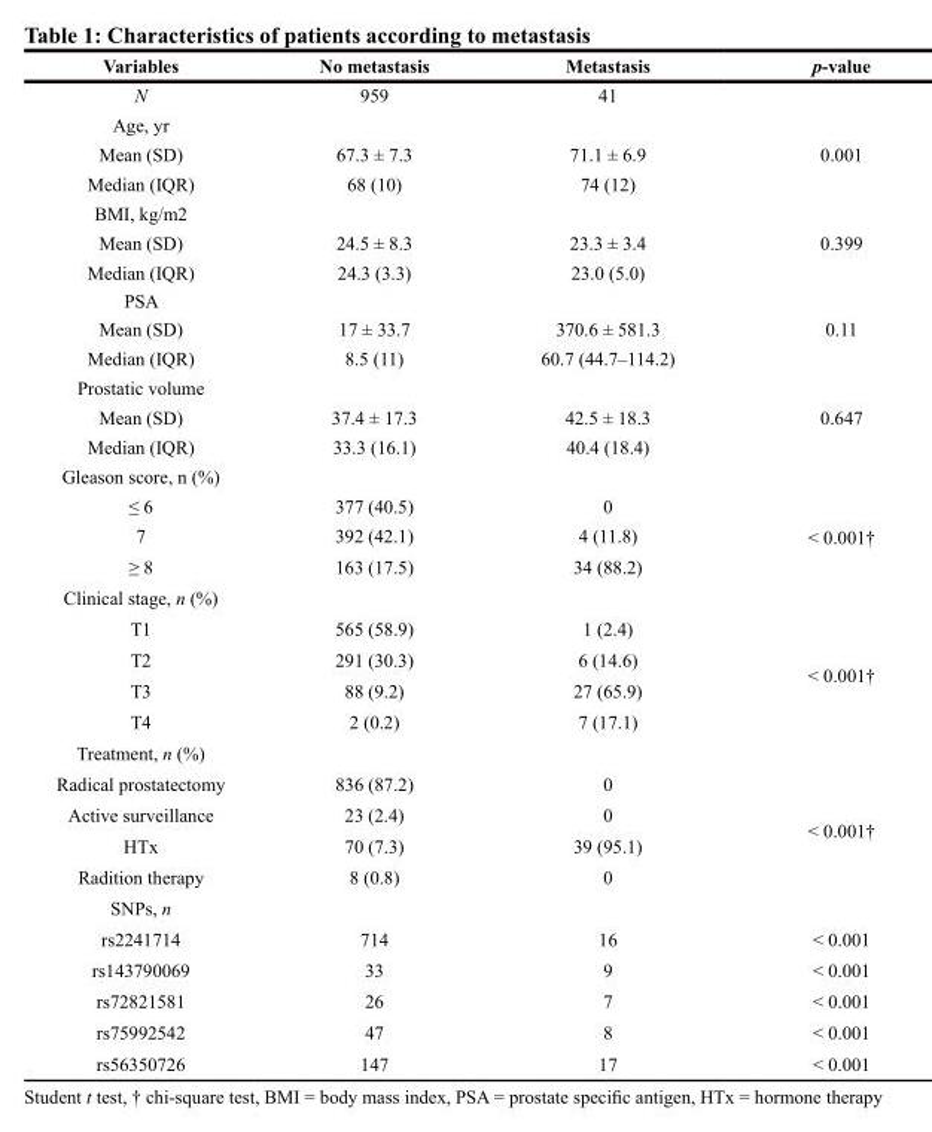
<table><thead><tr><td>Variables</td><td>No metastasis</td><td>Metastasis</td><td>p-value</td></tr></thead><tbody><tr><td>N</td><td>959</td><td>41</td><td></td></tr><tr><td colspan="4">Age, yr</td></tr><tr><td>Mean (SD)</td><td>67.3 ± 7.3</td><td>71.1 ± 6.9</td><td>0.001</td></tr><tr><td>Median (IQR)</td><td>68 (10)</td><td>74 (12)</td><td></td></tr><tr><td colspan="4">BMI, kg/m2</td></tr><tr><td>Mean (SD)</td><td>24.5 ± 8.3</td><td>23.3 ± 3.4</td><td>0.399</td></tr><tr><td>Median (IQR)</td><td>24.3 (3.3)</td><td>23.0 (5.0)</td><td></td></tr><tr><td colspan="4">PSA</td></tr><tr><td>Mean (SD)</td><td>17 ± 33.7</td><td>370.6 ± 581.3</td><td>0.11</td></tr><tr><td>Median (IQR)</td><td>8.5 (11)</td><td>60.7 (44.7–114.2)</td><td></td></tr><tr><td colspan="4">Prostatic volume</td></tr><tr><td>Mean (SD)</td><td>37.4 ± 17.3</td><td>42.5 ± 18.3</td><td>0.647</td></tr><tr><td>Median (IQR)</td><td>33.3 (16.1)</td><td>40.4 (18.4)</td><td></td></tr><tr><td colspan="4">Gleason score, n (%)</td></tr><tr><td>≤ 6</td><td>377 (40.5)</td><td>0</td><td rowspan="3">&lt; 0.001†</td></tr><tr><td>7</td><td>392 (42.1)</td><td>4 (11.8)</td></tr><tr><td>≥ 8</td><td>163 (17.5)</td><td>34 (88.2)</td></tr><tr><td colspan="4">Clinical stage, n (%)</td></tr><tr><td>T1</td><td>565 (58.9)</td><td>1 (2.4)</td><td rowspan="4">&lt; 0.001†</td></tr><tr><td>T2</td><td>291 (30.3)</td><td>6 (14.6)</td></tr><tr><td>T3</td><td>88 (9.2)</td><td>27 (65.9)</td></tr><tr><td>T4</td><td>2 (0.2)</td><td>7 (17.1)</td></tr><tr><td colspan="4">Treatment, n (%)</td></tr><tr><td>Radical prostatectomy</td><td>836 (87.2)</td><td>0</td><td rowspan="4">&lt; 0.001†</td></tr><tr><td>Active surveillance</td><td>23 (2.4)</td><td>0</td></tr><tr><td>HTx</td><td>70 (7.3)</td><td>39 (95.1)</td></tr><tr><td>Radition therapy</td><td>8 (0.8)</td><td>0</td></tr><tr><td colspan="4">SNPs, n</td></tr><tr><td>rs2241714</td><td>714</td><td>16</td><td>&lt; 0.001</td></tr><tr><td>rs143790069</td><td>33</td><td>9</td><td>&lt; 0.001</td></tr><tr><td>rs72821581</td><td>26</td><td>7</td><td>&lt; 0.001</td></tr><tr><td>rs75992542</td><td>47</td><td>8</td><td>&lt; 0.001</td></tr><tr><td>rs56350726</td><td>147</td><td>17</td><td>&lt; 0.001</td></tr></tbody></table>